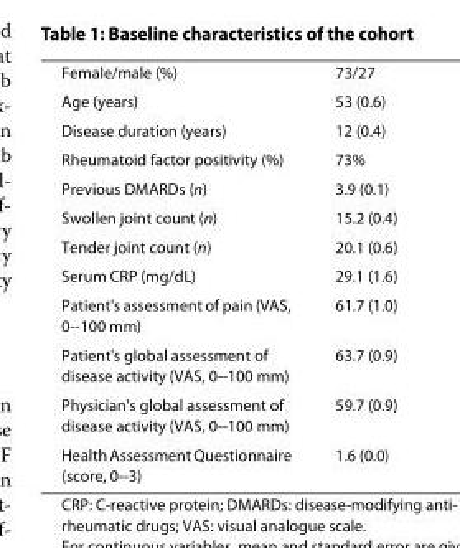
<table><tbody><tr><td>Female/male (%)</td><td>73/27</td></tr><tr><td>Age (years)</td><td>53 (0.6)</td></tr><tr><td>Disease duration (years)</td><td>12 (0.4)</td></tr><tr><td>Rheumatoid factor positivity (%)</td><td>73%</td></tr><tr><td>Previous DMARDs (n)</td><td>3.9 (0.1)</td></tr><tr><td>Swollen joint count (n)</td><td>15.2 (0.4)</td></tr><tr><td>Tender joint count (n)</td><td>20.1 (0.6)</td></tr><tr><td>Serum CRP (mg/dL)</td><td>29.1 (1.6)</td></tr><tr><td>Patient&#x27;s assessment of pain (VAS, 0--100 mm)</td><td>61.7 (1.0)</td></tr><tr><td>Patient&#x27;s global assessment of disease activity (VAS, 0--100 mm)</td><td>63.7 (0.9)</td></tr><tr><td>Physician&#x27;s global assessment of disease activity (VAS, 0--100 mm)</td><td>59.7 (0.9)</td></tr><tr><td>Health Assessment Questionnaire (score, 0--3)</td><td>1.6 (0.0)</td></tr></tbody></table>